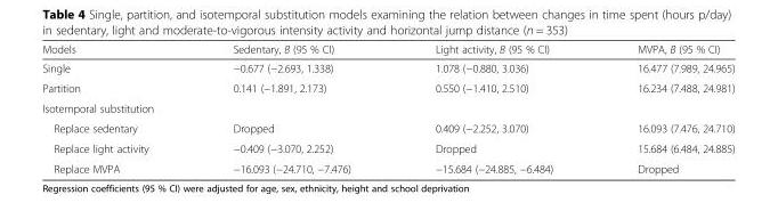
<table><thead><tr><td>Models</td><td>Sedentary, B (95 % CI)</td><td>Light activity, B (95 % CI)</td><td>MVPA, B (95 % CI)</td></tr></thead><tbody><tr><td>Single</td><td>−0.677 (−2.693, 1.338)</td><td>1.078 (−0.880, 3.036)</td><td>16.477 (7.989, 24.965)</td></tr><tr><td>Partition</td><td>0.141 (−1.891, 2.173)</td><td>0.550 (−1.410, 2.510)</td><td>16.234 (7.488, 24.981)</td></tr><tr><td colspan="4">Isotemporal substitution</td></tr><tr><td>Replace sedentary</td><td>Dropped</td><td>0.409 (−2.252, 3.070)</td><td>16.093 (7.476, 24.710)</td></tr><tr><td>Replace light activity</td><td>−0.409 (−3.070, 2.252)</td><td>Dropped</td><td>15.684 (6.484, 24.885)</td></tr><tr><td>Replace MVPA</td><td>−16.093 (−24.710, −7.476)</td><td>−15.684 (−24.885, −6.484)</td><td>Dropped</td></tr></tbody></table>